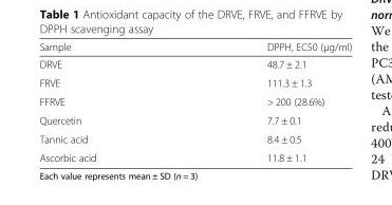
<table><thead><tr><td>Sample</td><td>DPPH, EC50 (μg/ml)</td></tr></thead><tbody><tr><td>DRVE</td><td>48.7 ± 2.1</td></tr><tr><td>FRVE</td><td>111.3 ± 1.3</td></tr><tr><td>FFRVE</td><td>&gt; 200 (28.6%)</td></tr><tr><td>Quercetin</td><td>7.7 ± 0.1</td></tr><tr><td>Tannic acid</td><td>8.4 ± 0.5</td></tr><tr><td>Ascorbic acid</td><td>11.8 ± 1.1</td></tr></tbody></table>